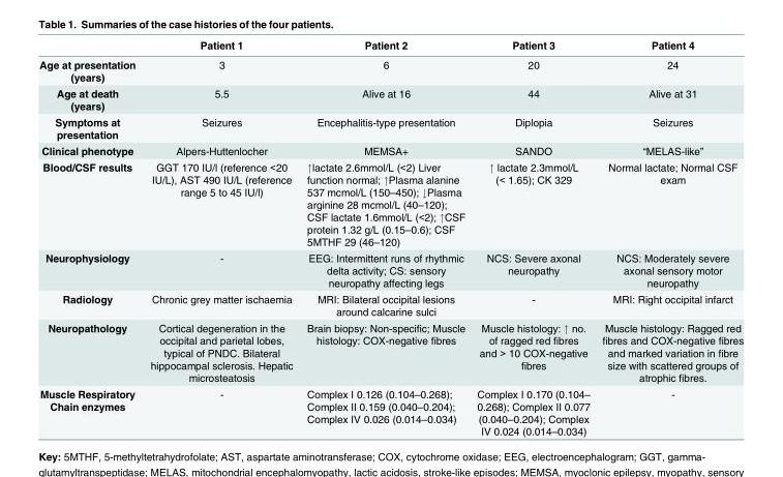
<table><thead><tr><td></td><td>Patient 1</td><td>Patient 2</td><td>Patient 3</td><td>Patient 4</td></tr></thead><tbody><tr><td>Age at presentation (years)</td><td>3</td><td>6</td><td>20</td><td>24</td></tr><tr><td>Age at death (years)</td><td>5.5</td><td>Alive at 16</td><td>44</td><td>Alive at 31</td></tr><tr><td>Symptoms at presentation</td><td>Seizures</td><td>Encephalitis-type presentation</td><td>Diplopia</td><td>Seizures</td></tr><tr><td>Clinical phenotype</td><td>Alpers-Huttenlocher</td><td>MEMSA+</td><td>SANDO</td><td>“MELAS-like”</td></tr><tr><td>Blood/CSF results</td><td>GGT 170 IU/l (reference &lt;20 IU/L), AST 490 IU/L (reference range 5 to 45 IU/l)</td><td>↑lactate 2.6mmol/L (&lt;2) Liver function normal; ↑Plasma alanine 537 mcmol/L (150–450); ↓Plasma arginine 28 mcmol/L (40–120); CSF lactate 1.6mmol/L (&lt;2); ↑CSF protein 1.32 g/L (0.15–0.6); CSF 5MTHF 29 (46–120)</td><td>↑ lactate 2.3mmol/L (&lt; 1.65); CK 329</td><td>Normal lactate; Normal CSF exam</td></tr><tr><td>Neurophysiology</td><td>-</td><td>EEG: Intermittent runs of rhythmic delta activity; CS: sensory neuropathy affecting legs</td><td>NCS: Severe axonal neuropathy</td><td>NCS: Moderately severe axonal sensory motor neuropathy</td></tr><tr><td>Radiology</td><td>Chronic grey matter ischaemia</td><td>MRI: Bilateral occipital lesions around calcarine sulci</td><td>-</td><td>MRI: Right occipital infarct</td></tr><tr><td>Neuropathology</td><td>Cortical degeneration in the occipital and parietal lobes, typical of PNDC. Bilateral hippocampal sclerosis. Hepatic microsteatosis</td><td>Brain biopsy: Non-specific; Muscle histology: COX-negative fibres</td><td>Muscle histology: ↑ no. of ragged red fibres and &gt; 10 COX-negative fibres</td><td>Muscle histology: Ragged red fibres and COX-negative fibres and marked variation in fibre size with scattered groups of atrophic fibres.</td></tr><tr><td>Muscle Respiratory Chain enzymes</td><td>-</td><td>Complex I 0.126 (0.104–0.268); Complex II 0.159 (0.040–0.204); Complex IV 0.026 (0.014–0.034)</td><td>Complex I 0.170 (0.104– 0.268); Complex II 0.077 (0.040–0.204); Complex IV 0.024 (0.014–0.034)</td><td>-</td></tr></tbody></table>